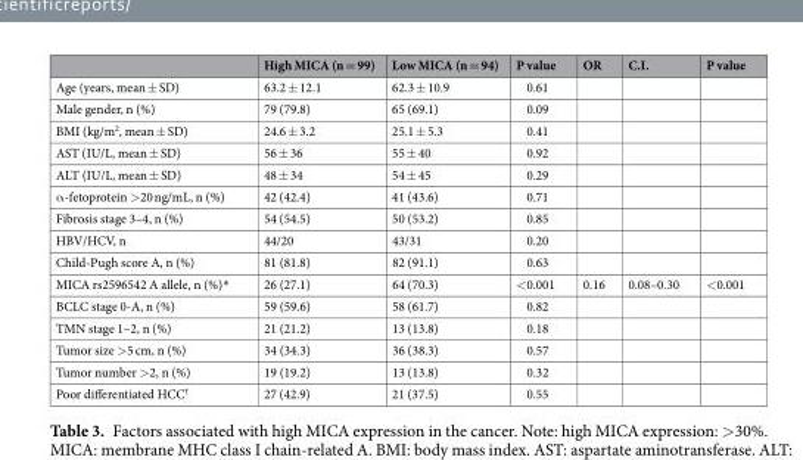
<table><thead><tr><td></td><td>High MICA (n = 99)</td><td>Low MICA (n = 94)</td><td>P value</td><td>OR</td><td>C.I.</td><td>P value</td></tr></thead><tbody><tr><td>Age (years, mean ± SD)</td><td>63.2 ± 12.1</td><td>62.3 ± 10.9</td><td>0.61</td><td></td><td></td><td></td></tr><tr><td>Male gender, n (%)</td><td>79 (79.8)</td><td>65 (69.1)</td><td>0.09</td><td></td><td></td><td></td></tr><tr><td>BMI (kg/m<sup>2</sup>, mean ± SD)</td><td>24.6 ± 3.2</td><td>25.1 ± 5.3</td><td>0.41</td><td></td><td></td><td></td></tr><tr><td>AST (IU/L, mean ± SD)</td><td>56 ± 36</td><td>55 ± 40</td><td>0.92</td><td></td><td></td><td></td></tr><tr><td>ALT (IU/L, mean ± SD)</td><td>48 ± 34</td><td>54 ± 45</td><td>0.29</td><td></td><td></td><td></td></tr><tr><td>α-fetoprotein &gt;20 ng/mL, n (%)</td><td>42 (42.4)</td><td>41 (43.6)</td><td>0.71</td><td></td><td></td><td></td></tr><tr><td>Fibrosis stage 3–4, n (%)</td><td>54 (54.5)</td><td>50 (53.2)</td><td>0.85</td><td></td><td></td><td></td></tr><tr><td>HBV/HCV, n</td><td>44/20</td><td>43/31</td><td>0.20</td><td></td><td></td><td></td></tr><tr><td>Child-Pugh score A, n (%)</td><td>81 (81.8)</td><td>82 (91.1)</td><td>0.63</td><td></td><td></td><td></td></tr><tr><td>MICA rs2596542 A allele, n (%)*</td><td>26 (27.1)</td><td>64 (70.3)</td><td>&lt;0.001</td><td>0.16</td><td>0.08–0.30</td><td>&lt;0.001</td></tr><tr><td>BCLC stage 0-A, n (%)</td><td>59 (59.6)</td><td>58 (61.7)</td><td>0.82</td><td></td><td></td><td></td></tr><tr><td>TMN stage 1–2, n (%)</td><td>21 (21.2)</td><td>13 (13.8)</td><td>0.18</td><td></td><td></td><td></td></tr><tr><td>Tumor size &gt;5 cm, n (%)</td><td>34 (34.3)</td><td>36 (38.3)</td><td>0.57</td><td></td><td></td><td></td></tr><tr><td>Tumor number &gt;2, n (%)</td><td>19 (19.2)</td><td>13 (13.8)</td><td>0.32</td><td></td><td></td><td></td></tr><tr><td>Poor differentiated HCC<sup>†</sup></td><td>27 (42.9)</td><td>21 (37.5)</td><td>0.55</td><td></td><td></td><td></td></tr></tbody></table>